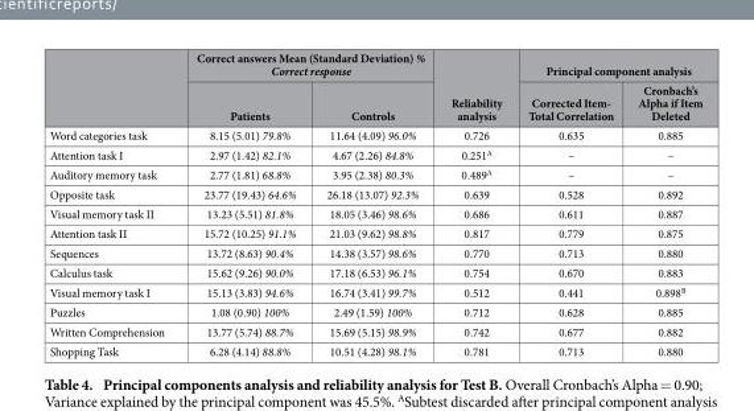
<table><thead><tr><td rowspan="2"></td><td colspan="2">Correct answers Mean (Standard Deviation) % Correct response</td><td rowspan="2">Reliability analysis</td><td colspan="2">Principal component analysis</td></tr><tr><td>Patients</td><td>Controls</td><td>Corrected Item- Total Correlation</td><td>Cronbach’s Alpha if Item Deleted</td></tr></thead><tbody><tr><td>Word categories task</td><td>8.15 (5.01) 79.8%</td><td>11.64 (4.09) 96.0%</td><td>0.726</td><td>0.635</td><td>0.885</td></tr><tr><td>Attention task I</td><td>2.97 (1.42) 82.1%</td><td>4.67 (2.26) 84.8%</td><td>0.251<sup>A</sup></td><td>–</td><td>–</td></tr><tr><td>Auditory memory task</td><td>2.77 (1.81) 68.8%</td><td>3.95 (2.38) 80.3%</td><td>0.489<sup>A</sup></td><td>–</td><td>–</td></tr><tr><td>Opposite task</td><td>23.77 (19.43) 64.6%</td><td>26.18 (13.07) 92.3%</td><td>0.639</td><td>0.528</td><td>0.892</td></tr><tr><td>Visual memory task II</td><td>13.23 (5.51) 81.8%</td><td>18.05 (3.46) 98.6%</td><td>0.686</td><td>0.611</td><td>0.887</td></tr><tr><td>Attention task II</td><td>15.72 (10.25) 91.1%</td><td>21.03 (9.62) 98.8%</td><td>0.817</td><td>0.779</td><td>0.875</td></tr><tr><td>Sequences</td><td>13.72 (8.63) 90.4%</td><td>14.38 (3.57) 98.6%</td><td>0.770</td><td>0.713</td><td>0.880</td></tr><tr><td>Calculus task</td><td>15.62 (9.26) 90.0%</td><td>17.18 (6.53) 96.1%</td><td>0.754</td><td>0.670</td><td>0.883</td></tr><tr><td>Visual memory task I</td><td>15.13 (3.83) 94.6%</td><td>16.74 (3.41) 99.7%</td><td>0.512</td><td>0.441</td><td>0.898<sup>B</sup></td></tr><tr><td>Puzzles</td><td>1.08 (0.90) 100%</td><td>2.49 (1.59) 100%</td><td>0.712</td><td>0.628</td><td>0.885</td></tr><tr><td>Written Comprehension</td><td>13.77 (5.74) 88.7%</td><td>15.69 (5.15) 98.9%</td><td>0.742</td><td>0.677</td><td>0.882</td></tr><tr><td>Shopping Task</td><td>6.28 (4.14) 88.8%</td><td>10.51 (4.28) 98.1%</td><td>0.781</td><td>0.713</td><td>0.880</td></tr></tbody></table>